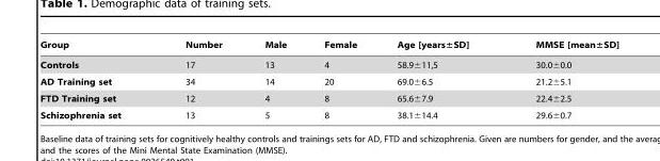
<table><thead><tr><td>Group</td><td>Number</td><td>Male</td><td>Female</td><td>Age [years±SD]</td><td>MMSE [mean±SD]</td></tr></thead><tbody><tr><td>Controls</td><td>17</td><td>13</td><td>4</td><td>58.9±11,5</td><td>30.0±0.0</td></tr><tr><td>AD Training set</td><td>34</td><td>14</td><td>20</td><td>69.0±6.5</td><td>21.2±5.1</td></tr><tr><td>FTD Training set</td><td>12</td><td>4</td><td>8</td><td>65.6±7.9</td><td>22.4±2.5</td></tr><tr><td>Schizophrenia set</td><td>13</td><td>5</td><td>8</td><td>38.1±14.4</td><td>29.6±0.7</td></tr></tbody></table>